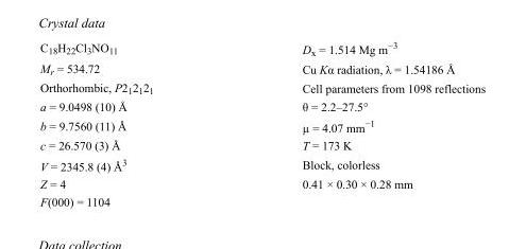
<table><tbody><tr><td>C<sub>18</sub>H<sub>22</sub>Cl<sub>3</sub>NO<sub>11</sub></td><td>D<sub>x</sub> = 1.514 Mg m<sup>−3</sup></td></tr><tr><td>M<sub>r</sub> = 534.72</td><td>Cu Kα radiation, λ = 1.54186 Å</td></tr><tr><td>Orthorhombic, P2<sub>1</sub>2<sub>1</sub>2<sub>1</sub></td><td>Cell parameters from 1098 reflections</td></tr><tr><td>a = 9.0498 (10) Å</td><td>θ = 2.2–27.5°</td></tr><tr><td>b = 9.7560 (11) Å</td><td>µ = 4.07 mm<sup>−1</sup></td></tr><tr><td>c = 26.570 (3) Å</td><td>T = 173 K</td></tr><tr><td>V = 2345.8 (4) Å<sup>3</sup></td><td>Block, colorless</td></tr><tr><td>Z = 4</td><td>0.41 × 0.30 × 0.28 mm</td></tr><tr><td>F(000) = 1104</td><td></td></tr></tbody></table>